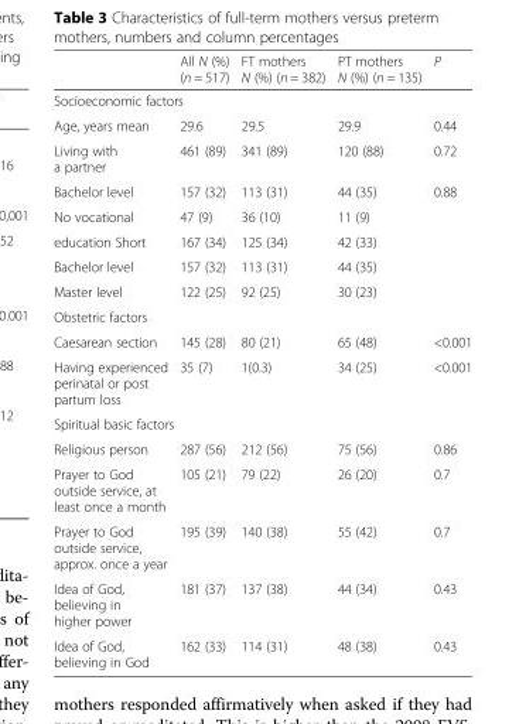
<table><thead><tr><td></td><td>All N (%) (n = 517)</td><td>FT mothers N (%) (n = 382)</td><td>PT mothers N (%) (n = 135)</td><td>P</td></tr></thead><tbody><tr><td colspan="5">Socioeconomic factors</td></tr><tr><td>Age, years mean</td><td>29.6</td><td>29.5</td><td>29.9</td><td>0.44</td></tr><tr><td>Living with a partner</td><td>461 (89)</td><td>341 (89)</td><td>120 (88)</td><td>0.72</td></tr><tr><td>Bachelor level</td><td>157 (32)</td><td>113 (31)</td><td>44 (35)</td><td rowspan="3">0.88</td></tr><tr><td>No vocational</td><td>47 (9)</td><td>36 (10)</td><td>11 (9)</td></tr><tr><td>education Short</td><td>167 (34)</td><td>125 (34)</td><td>42 (33)</td></tr><tr><td>Bachelor level</td><td>157 (32)</td><td>113 (31)</td><td>44 (35)</td><td rowspan="2"></td></tr><tr><td>Master level</td><td>122 (25)</td><td>92 (25)</td><td>30 (23)</td></tr><tr><td colspan="5">Obstetric factors</td></tr><tr><td>Caesarean section</td><td>145 (28)</td><td>80 (21)</td><td>65 (48)</td><td>&lt;0.001</td></tr><tr><td>Having experienced perinatal or post partum loss</td><td>35 (7)</td><td>1(0.3)</td><td>34 (25)</td><td>&lt;0.001</td></tr><tr><td colspan="5">Spiritual basic factors</td></tr><tr><td>Religious person</td><td>287 (56)</td><td>212 (56)</td><td>75 (56)</td><td>0.86</td></tr><tr><td>Prayer to God outside service, at least once a month</td><td>105 (21)</td><td>79 (22)</td><td>26 (20)</td><td>0.7</td></tr><tr><td>Prayer to God outside service, approx. once a year</td><td>195 (39)</td><td>140 (38)</td><td>55 (42)</td><td>0.7</td></tr><tr><td>Idea of God, believing in higher power</td><td>181 (37)</td><td>137 (38)</td><td>44 (34)</td><td>0.43</td></tr><tr><td>Idea of God, believing in God</td><td>162 (33)</td><td>114 (31)</td><td>48 (38)</td><td>0.43</td></tr></tbody></table>